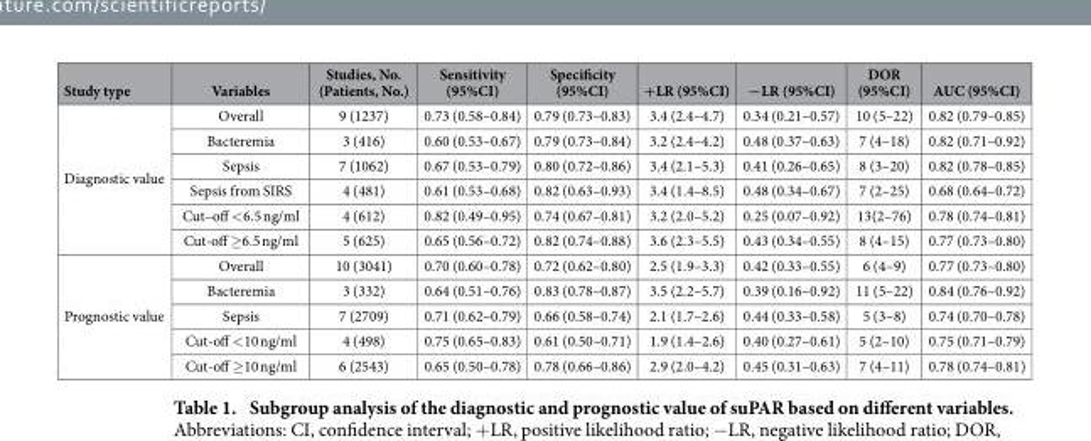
<table><thead><tr><td>Study type</td><td>Variables</td><td>Studies, No. (Patients, No.)</td><td>Sensitivity (95%CI)</td><td>Specificity (95%CI)</td><td>+LR (95%CI)</td><td>−LR (95%CI)</td><td>DOR (95%CI)</td><td>AUC (95%CI)</td></tr></thead><tbody><tr><td rowspan="6">Diagnostic value</td><td>Overall</td><td>9 (1237)</td><td>0.73 (0.58–0.84)</td><td>0.79 (0.73–0.83)</td><td>3.4 (2.4–4.7)</td><td>0.34 (0.21–0.57)</td><td>10 (5–22)</td><td>0.82 (0.79–0.85)</td></tr><tr><td>Bacteremia</td><td>3 (416)</td><td>0.60 (0.53–0.67)</td><td>0.79 (0.73–0.84)</td><td>3.2 (2.4–4.2)</td><td>0.48 (0.37–0.63)</td><td>7 (4–18)</td><td>0.82 (0.71–0.92)</td></tr><tr><td>Sepsis</td><td>7 (1062)</td><td>0.67 (0.53–0.79)</td><td>0.80 (0.72–0.86)</td><td>3.4 (2.1–5.3)</td><td>0.41 (0.26–0.65)</td><td>8 (3–20)</td><td>0.82 (0.78–0.85)</td></tr><tr><td>Sepsis from SIRS</td><td>4 (481)</td><td>0.61 (0.53–0.68)</td><td>0.82 (0.63–0.93)</td><td>3.4 (1.4–8.5)</td><td>0.48 (0.34–0.67)</td><td>7 (2–25)</td><td>0.68 (0.64–0.72)</td></tr><tr><td>Cut–off &lt; 6.5 ng/ml</td><td>4 (612)</td><td>0.82 (0.49–0.95)</td><td>0.74 (0.67–0.81)</td><td>3.2 (2.0–5.2)</td><td>0.25 (0.07–0.92)</td><td>13(2–76)</td><td>0.78 (0.74–0.81)</td></tr><tr><td>Cut-off ≥ 6.5 ng/ml</td><td>5 (625)</td><td>0.65 (0.56–0.72)</td><td>0.82 (0.74–0.88)</td><td>3.6 (2.3–5.5)</td><td>0.43 (0.34–0.55)</td><td>8 (4–15)</td><td>0.77 (0.73–0.80)</td></tr><tr><td rowspan="5">Prognostic value</td><td>Overall</td><td>10 (3041)</td><td>0.70 (0.60–0.78)</td><td>0.72 (0.62–0.80)</td><td>2.5 (1.9–3.3)</td><td>0.42 (0.33–0.55)</td><td>6 (4–9)</td><td>0.77 (0.73–0.80)</td></tr><tr><td>Bacteremia</td><td>3 (332)</td><td>0.64 (0.51–0.76)</td><td>0.83 (0.78–0.87)</td><td>3.5 (2.2–5.7)</td><td>0.39 (0.16–0.92)</td><td>11 (5–22)</td><td>0.84 (0.76–0.92)</td></tr><tr><td>Sepsis</td><td>7 (2709)</td><td>0.71 (0.62–0.79)</td><td>0.66 (0.58–0.74)</td><td>2.1 (1.7–2.6)</td><td>0.44 (0.33–0.58)</td><td>5 (3–8)</td><td>0.74 (0.70–0.78)</td></tr><tr><td>Cut-off &lt; 10 ng/ml</td><td>4 (498)</td><td>0.75 (0.65–0.83)</td><td>0.61 (0.50–0.71)</td><td>1.9 (1.4–2.6)</td><td>0.40 (0.27–0.61)</td><td>5 (2–10)</td><td>0.75 (0.71–0.79)</td></tr><tr><td>Cut-off ≥ 10 ng/ml</td><td>6 (2543)</td><td>0.65 (0.50–0.78)</td><td>0.78 (0.66–0.86)</td><td>2.9 (2.0–4.2)</td><td>0.45 (0.31–0.63)</td><td>7 (4–11)</td><td>0.78 (0.74–0.81)</td></tr></tbody></table>